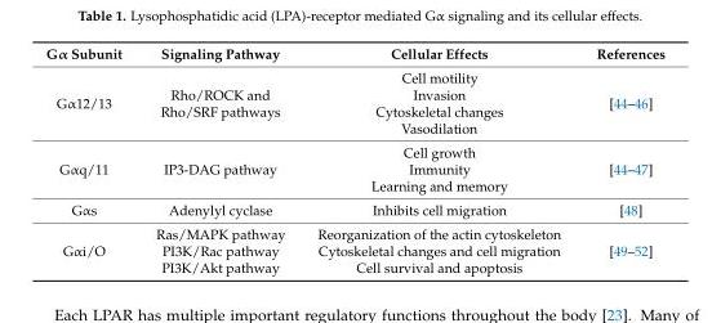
<table><thead><tr><td>Gα Subunit</td><td>Signaling Pathway</td><td>Cellular Effects</td><td>References</td></tr></thead><tbody><tr><td>Gα12/13</td><td>Rho/ROCK and Rho/SRF pathways</td><td>Cell motility Invasion Cytoskeletal changes Vasodilation</td><td>[44–46]</td></tr><tr><td>Gαq/11</td><td>IP3-DAG pathway</td><td>Cell growth Immunity Learning and memory</td><td>[44–47]</td></tr><tr><td>Gαs</td><td>Adenylyl cyclase</td><td>Inhibits cell migration</td><td>[48]</td></tr><tr><td>Gαi/O</td><td>Ras/MAPK pathway PI3K/Rac pathway PI3K/Akt pathway</td><td>Reorganization of the actin cytoskeleton Cytoskeletal changes and cell migration Cell survival and apoptosis</td><td>[49–52]</td></tr></tbody></table>